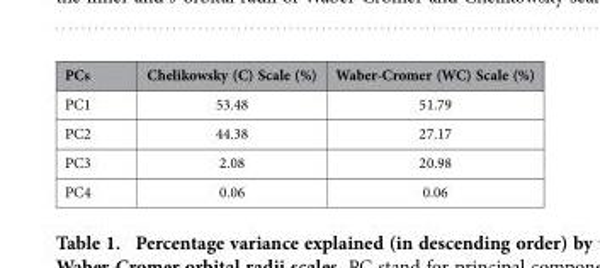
<table><thead><tr><td>PCs</td><td>Chelikowsky (C) Scale (%)</td><td>Waber-Cromer (WC) Scale (%)</td></tr></thead><tbody><tr><td>PC1</td><td>53.48</td><td>51.79</td></tr><tr><td>PC2</td><td>44.38</td><td>27.17</td></tr><tr><td>PC3</td><td>2.08</td><td>20.98</td></tr><tr><td>PC4</td><td>0.06</td><td>0.06</td></tr></tbody></table>